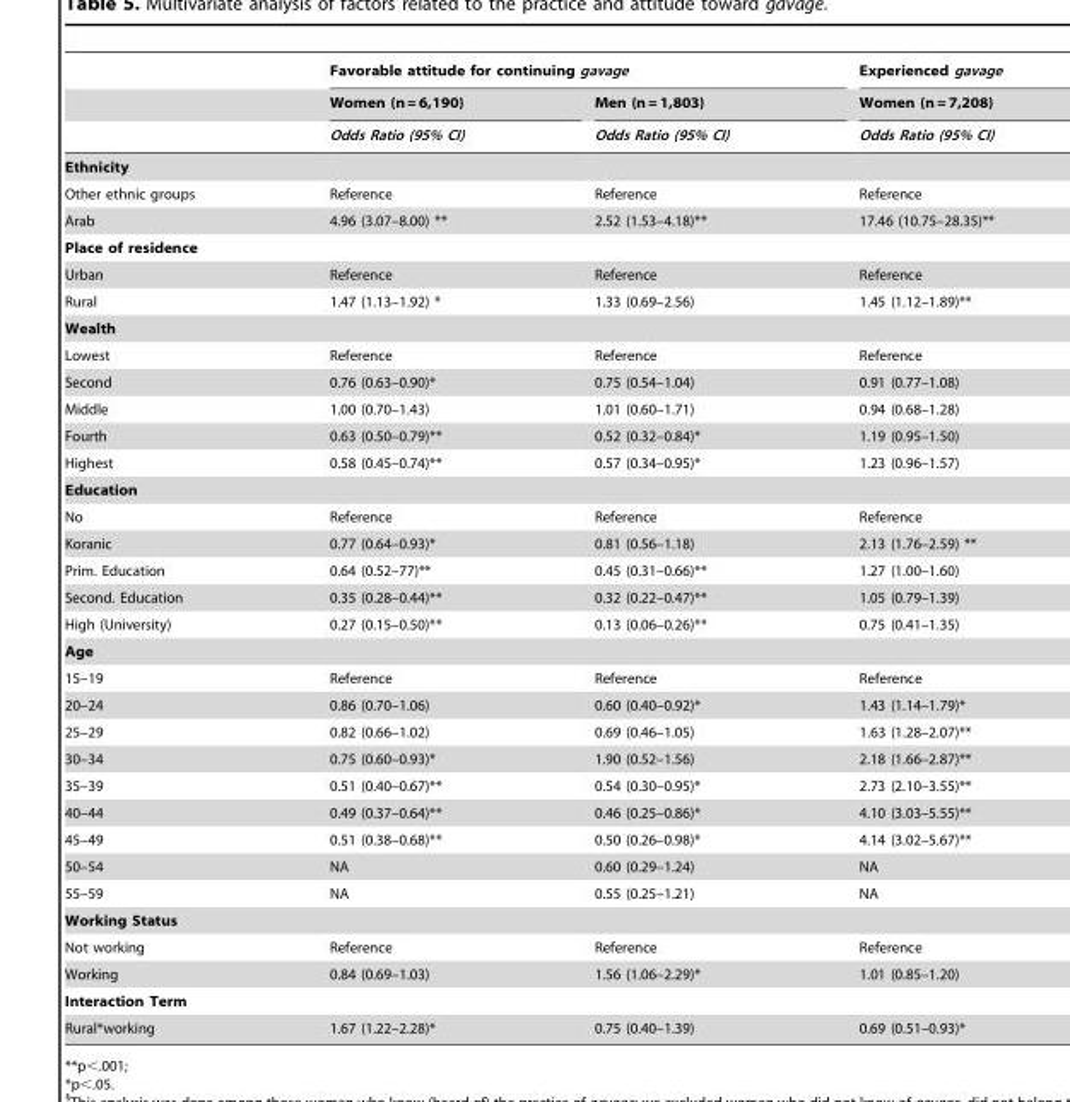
<table><thead><tr><td rowspan="3"></td><td colspan="2">Favorable attitude for continuing gavage</td><td rowspan="3">Experienced gavage Women (n = 7,208) Odds Ratio (95% CI)</td></tr><tr><td rowspan="2">Women (n = 6,190) Odds Ratio (95% CI)</td><td rowspan="2">Men (n = 1,803) Odds Ratio (95% CI)</td></tr><tr></tr></thead><tbody><tr><td colspan="4">Ethnicity</td></tr><tr><td>Other ethnic groups</td><td>Reference</td><td>Reference</td><td>Reference</td></tr><tr><td>Arab</td><td>4.96 (3.07–8.00) **</td><td>2.52 (1.53–4.18)**</td><td>17.46 (10.75–28.35)**</td></tr><tr><td colspan="4">Place of residence</td></tr><tr><td>Urban</td><td>Reference</td><td>Reference</td><td>Reference</td></tr><tr><td>Rural</td><td>1.47 (1.13–1.92) *</td><td>1.33 (0.69–2.56)</td><td>1.45 (1.12–1.89)**</td></tr><tr><td colspan="4">Wealth</td></tr><tr><td>Lowest</td><td>Reference</td><td>Reference</td><td>Reference</td></tr><tr><td>Second</td><td>0.76 (0.63–0.90)*</td><td>0.75 (0.54–1.04)</td><td>0.91 (0.77–1.08)</td></tr><tr><td>Middle</td><td>1.00 (0.70–1.43)</td><td>1.01 (0.60–1.71)</td><td>0.94 (0.68–1.28)</td></tr><tr><td>Fourth</td><td>0.63 (0.50–0.79)**</td><td>0.52 (0.32–0.84)*</td><td>1.19 (0.95–1.50)</td></tr><tr><td>Highest</td><td>0.58 (0.45–0.74)**</td><td>0.57 (0.34–0.95)*</td><td>1.23 (0.96–1.57)</td></tr><tr><td colspan="4">Education</td></tr><tr><td>No</td><td>Reference</td><td>Reference</td><td>Reference</td></tr><tr><td>Koranic</td><td>0.77 (0.64–0.93)*</td><td>0.81 (0.56–1.18)</td><td>2.13 (1.76–2.59) **</td></tr><tr><td>Prim. Education</td><td>0.64 (0.52–77)**</td><td>0.45 (0.31–0.66)**</td><td>1.27 (1.00–1.60)</td></tr><tr><td>Second. Education</td><td>0.35 (0.28–0.44)**</td><td>0.32 (0.22–0.47)**</td><td>1.05 (0.79–1.39)</td></tr><tr><td>High (University)</td><td>0.27 (0.15–0.50)**</td><td>0.13 (0.06–0.26)**</td><td>0.75 (0.41–1.35)</td></tr><tr><td colspan="4">Age</td></tr><tr><td>15–19</td><td>Reference</td><td>Reference</td><td>Reference</td></tr><tr><td>20–24</td><td>0.86 (0.70–1.06)</td><td>0.60 (0.40–0.92)*</td><td>1.43 (1.14–1.79)*</td></tr><tr><td>25–29</td><td>0.82 (0.66–1.02)</td><td>0.69 (0.46–1.05)</td><td>1.63 (1.28–2.07)**</td></tr><tr><td>30–34</td><td>0.75 (0.60–0.93)*</td><td>1.90 (0.52–1.56)</td><td>2.18 (1.66–2.87)**</td></tr><tr><td>35–39</td><td>0.51 (0.40–0.67)**</td><td>0.54 (0.30–0.95)*</td><td>2.73 (2.10–3.55)**</td></tr><tr><td>40–44</td><td>0.49 (0.37–0.64)**</td><td>0.46 (0.25–0.86)*</td><td>4.10 (3.03–5.55)**</td></tr><tr><td>45–49</td><td>0.51 (0.38–0.68)**</td><td>0.50 (0.26–0.98)*</td><td>4.14 (3.02–5.67)**</td></tr><tr><td>50–54</td><td>NA</td><td>0.60 (0.29–1.24)</td><td>NA</td></tr><tr><td>55–59</td><td>NA</td><td>0.55 (0.25–1.21)</td><td>NA</td></tr><tr><td colspan="4">Working Status</td></tr><tr><td>Not working</td><td>Reference</td><td>Reference</td><td>Reference</td></tr><tr><td>Working</td><td>0.84 (0.69–1.03)</td><td>1.56 (1.06–2.29)*</td><td>1.01 (0.85–1.20)</td></tr><tr><td colspan="4">Interaction Term</td></tr><tr><td>Rural*working</td><td>1.67 (1.22–2.28)*</td><td>0.75 (0.40–1.39)</td><td>0.69 (0.51–0.93)*</td></tr></tbody></table>